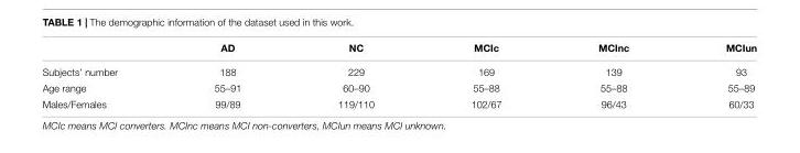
<table><thead><tr><td></td><td>AD</td><td>NC</td><td>MCIc</td><td>MCInc</td><td>MCIun</td></tr></thead><tbody><tr><td>Subjects’ number</td><td>188</td><td>229</td><td>169</td><td>139</td><td>93</td></tr><tr><td>Age range</td><td>55–91</td><td>60–90</td><td>55–88</td><td>55–88</td><td>55–89</td></tr><tr><td>Males/Females</td><td>99/89</td><td>119/110</td><td>102/67</td><td>96/43</td><td>60/33</td></tr></tbody></table>